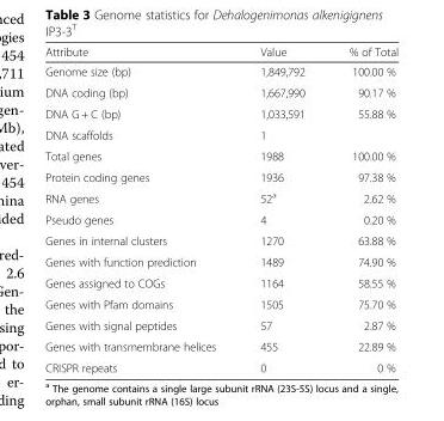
<table><thead><tr><td>Attribute</td><td>Value</td><td>% of Total</td></tr></thead><tbody><tr><td>Genome size (bp)</td><td>1,849,792</td><td>100.00 %</td></tr><tr><td>DNA coding (bp)</td><td>1,667,990</td><td>90.17 %</td></tr><tr><td>DNA G + C (bp)</td><td>1,033,591</td><td>55.88 %</td></tr><tr><td>DNA scaffolds</td><td>1</td><td></td></tr><tr><td>Total genes</td><td>1988</td><td>100.00 %</td></tr><tr><td>Protein coding genes</td><td>1936</td><td>97.38 %</td></tr><tr><td>RNA genes</td><td>52<sup>a</sup></td><td>2.62 %</td></tr><tr><td>Pseudo genes</td><td>4</td><td>0.20 %</td></tr><tr><td>Genes in internal clusters</td><td>1270</td><td>63.88 %</td></tr><tr><td>Genes with function prediction</td><td>1489</td><td>74.90 %</td></tr><tr><td>Genes assigned to COGs</td><td>1164</td><td>58.55 %</td></tr><tr><td>Genes with Pfam domains</td><td>1505</td><td>75.70 %</td></tr><tr><td>Genes with signal peptides</td><td>57</td><td>2.87 %</td></tr><tr><td>Genes with transmembrane helices</td><td>455</td><td>22.89 %</td></tr><tr><td>CRISPR repeats</td><td>0</td><td>0 %</td></tr></tbody></table>